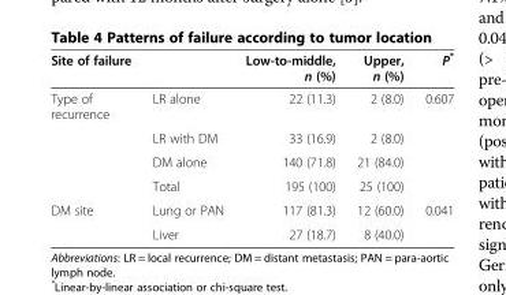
<table><thead><tr><td>Site of failure</td><td></td><td>Low-to-middle, n (%)</td><td>Upper, n (%)</td><td>P*</td></tr></thead><tbody><tr><td rowspan="4">Type of recurrence</td><td>LR alone</td><td>22 (11.3)</td><td>2 (8.0)</td><td>0.607</td></tr><tr><td>LR with DM</td><td>33 (16.9)</td><td>2 (8.0)</td><td></td></tr><tr><td>DM alone</td><td>140 (71.8)</td><td>21 (84.0)</td><td></td></tr><tr><td>Total</td><td>195 (100)</td><td>25 (100)</td><td></td></tr><tr><td rowspan="2">DM site</td><td>Lung or PAN</td><td>117 (81.3)</td><td>12 (60.0)</td><td>0.041</td></tr><tr><td>Liver</td><td>27 (18.7)</td><td>8 (40.0)</td><td></td></tr></tbody></table>